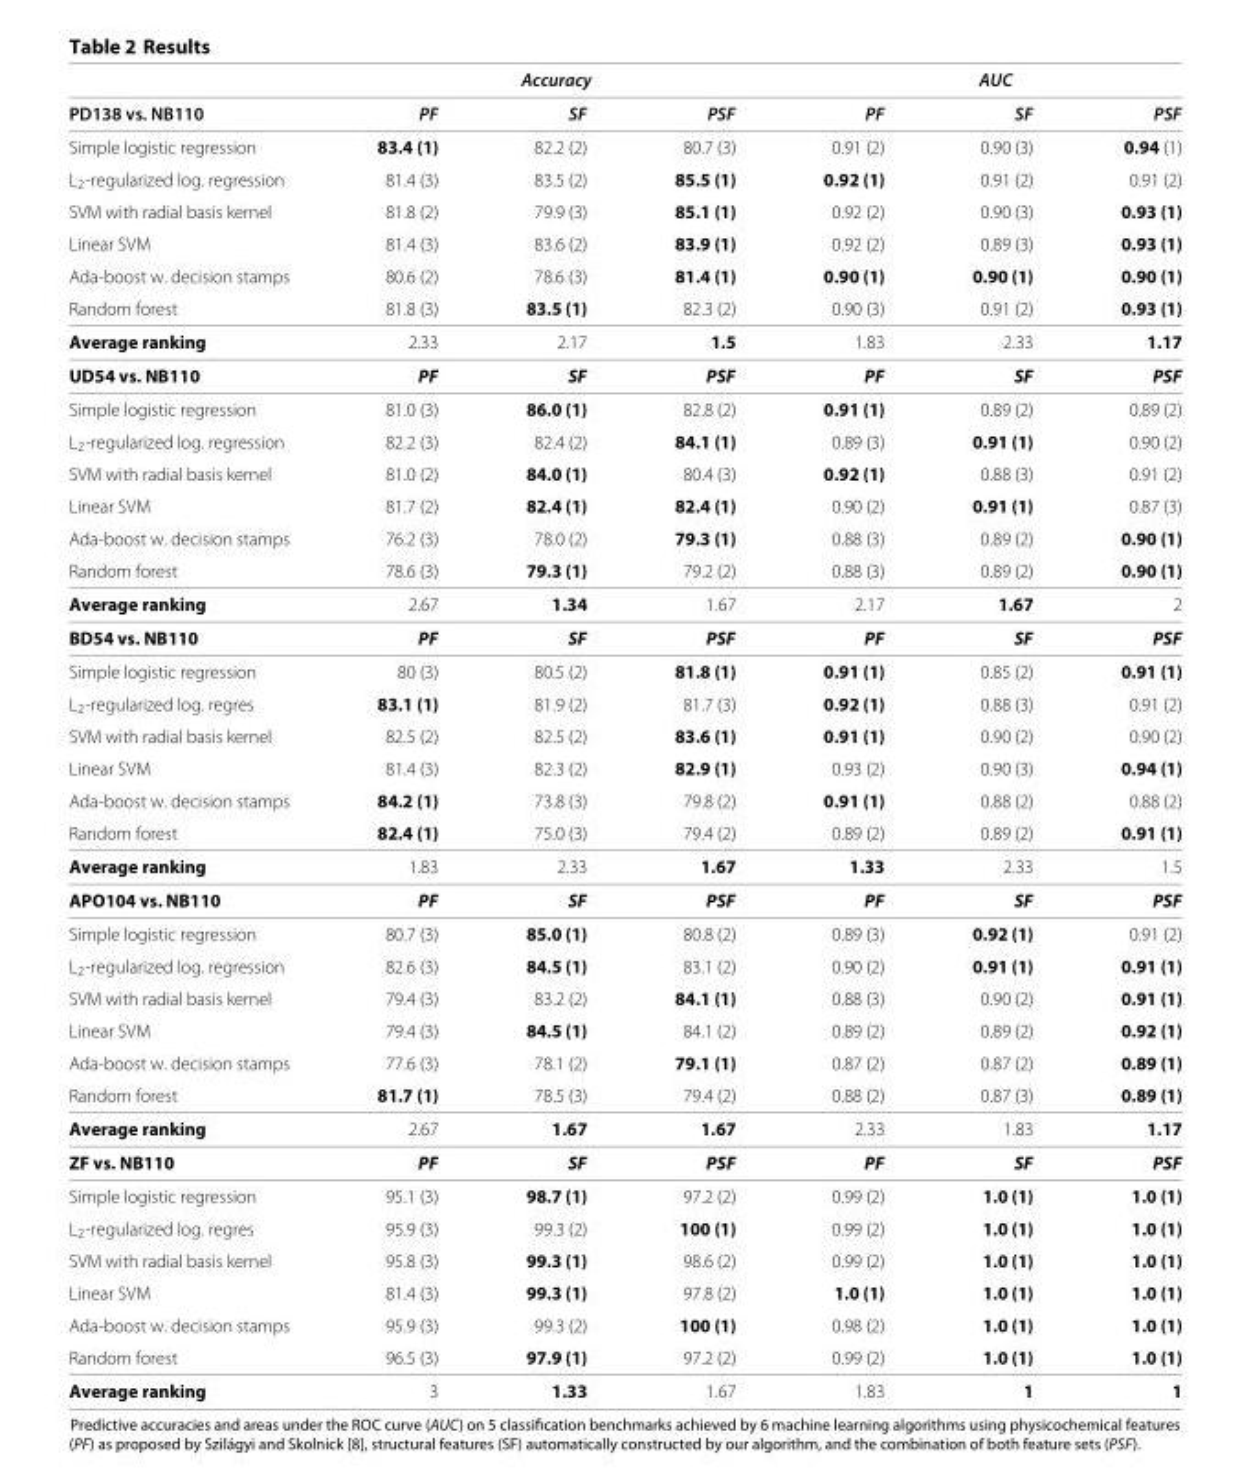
<table><thead><tr><td></td><td></td><td>Accuracy</td><td></td><td></td><td>AUC</td><td></td></tr></thead><tbody><tr><td>PD138 vs. NB110</td><td>PF</td><td>SF</td><td>PSF</td><td>PF</td><td>SF</td><td>PSF</td></tr><tr><td>Simple logistic regression</td><td>83.4 (1)</td><td>82.2 (2)</td><td>80.7 (3)</td><td>0.91 (2)</td><td>0.90 (3)</td><td>0.94 (1)</td></tr><tr><td>L<sub>2</sub>-regularized log. regression</td><td>81.4 (3)</td><td>83.5 (2)</td><td>85.5 (1)</td><td>0.92 (1)</td><td>0.91 (2)</td><td>0.91 (2)</td></tr><tr><td>SVM with radial basis kernel</td><td>81.8 (2)</td><td>79.9 (3)</td><td>85.1 (1)</td><td>0.92 (2)</td><td>0.90 (3)</td><td>0.93 (1)</td></tr><tr><td>Linear SVM</td><td>81.4 (3)</td><td>83.6 (2)</td><td>83.9 (1)</td><td>0.92 (2)</td><td>0.89 (3)</td><td>0.93 (1)</td></tr><tr><td>Ada-boost w. decision stamps</td><td>80.6 (2)</td><td>78.6 (3)</td><td>81.4 (1)</td><td>0.90 (1)</td><td>0.90 (1)</td><td>0.90 (1)</td></tr><tr><td>Random forest</td><td>81.8 (3)</td><td>83.5 (1)</td><td>82.3 (2)</td><td>0.90 (3)</td><td>0.91 (2)</td><td>0.93 (1)</td></tr><tr><td>Average ranking</td><td>2.33</td><td>2.17</td><td>1.5</td><td>1.83</td><td>2.33</td><td>1.17</td></tr><tr><td>UD54 vs. NB110</td><td>PF</td><td>SF</td><td>PSF</td><td>PF</td><td>SF</td><td>PSF</td></tr><tr><td>Simple logistic regression</td><td>81.0 (3)</td><td>86.0 (1)</td><td>82.8 (2)</td><td>0.91 (1)</td><td>0.89 (2)</td><td>0.89 (2)</td></tr><tr><td>L<sub>2</sub>-regularized log. regression</td><td>82.2 (3)</td><td>82.4 (2)</td><td>84.1 (1)</td><td>0.89 (3)</td><td>0.91 (1)</td><td>0.90 (2)</td></tr><tr><td>SVM with radial basis kernel</td><td>81.0 (2)</td><td>84.0 (1)</td><td>80.4 (3)</td><td>0.92 (1)</td><td>0.88 (3)</td><td>0.91 (2)</td></tr><tr><td>Linear SVM</td><td>81.7 (2)</td><td>82.4 (1)</td><td>82.4 (1)</td><td>0.90 (2)</td><td>0.91 (1)</td><td>0.87 (3)</td></tr><tr><td>Ada-boost w. decision stamps</td><td>76.2 (3)</td><td>78.0 (2)</td><td>79.3 (1)</td><td>0.88 (3)</td><td>0.89 (2)</td><td>0.90 (1)</td></tr><tr><td>Random forest</td><td>78.6 (3)</td><td>79.3 (1)</td><td>79.2 (2)</td><td>0.88 (3)</td><td>0.89 (2)</td><td>0.90 (1)</td></tr><tr><td>Average ranking</td><td>2.67</td><td>1.34</td><td>1.67</td><td>2.17</td><td>1.67</td><td>2</td></tr><tr><td>BD54 vs. NB110</td><td>PF</td><td>SF</td><td>PSF</td><td>PF</td><td>SF</td><td>PSF</td></tr><tr><td>Simple logistic regression</td><td>80 (3)</td><td>80.5 (2)</td><td>81.8 (1)</td><td>0.91 (1)</td><td>0.85 (2)</td><td>0.91 (1)</td></tr><tr><td>L<sub>2</sub>-regularized log. regres</td><td>83.1 (1)</td><td>81.9 (2)</td><td>81.7 (3)</td><td>0.92 (1)</td><td>0.88 (3)</td><td>0.91 (2)</td></tr><tr><td>SVM with radial basis kernel</td><td>82.5 (2)</td><td>82.5 (2)</td><td>83.6 (1)</td><td>0.91 (1)</td><td>0.90 (2)</td><td>0.90 (2)</td></tr><tr><td>Linear SVM</td><td>81.4 (3)</td><td>82.3 (2)</td><td>82.9 (1)</td><td>0.93 (2)</td><td>0.90 (3)</td><td>0.94 (1)</td></tr><tr><td>Ada-boost w. decision stamps</td><td>84.2 (1)</td><td>73.8 (3)</td><td>79.8 (2)</td><td>0.91 (1)</td><td>0.88 (2)</td><td>0.88 (2)</td></tr><tr><td>Random forest</td><td>82.4 (1)</td><td>75.0 (3)</td><td>79.4 (2)</td><td>0.89 (2)</td><td>0.89 (2)</td><td>0.91 (1)</td></tr><tr><td>Average ranking</td><td>1.83</td><td>2.33</td><td>1.67</td><td>1.33</td><td>2.33</td><td>1.5</td></tr><tr><td>APO104 vs. NB110</td><td>PF</td><td>SF</td><td>PSF</td><td>PF</td><td>SF</td><td>PSF</td></tr><tr><td>Simple logistic regression</td><td>80.7 (3)</td><td>85.0 (1)</td><td>80.8 (2)</td><td>0.89 (3)</td><td>0.92 (1)</td><td>0.91 (2)</td></tr><tr><td>L<sub>2</sub>-regularized log. regression</td><td>82.6 (3)</td><td>84.5 (1)</td><td>83.1 (2)</td><td>0.90 (2)</td><td>0.91 (1)</td><td>0.91 (1)</td></tr><tr><td>SVM with radial basis kernel</td><td>79.4 (3)</td><td>83.2 (2)</td><td>84.1 (1)</td><td>0.88 (3)</td><td>0.90 (2)</td><td>0.91 (1)</td></tr><tr><td>Linear SVM</td><td>79.4 (3)</td><td>84.5 (1)</td><td>84.1 (2)</td><td>0.89 (2)</td><td>0.89 (2)</td><td>0.92 (1)</td></tr><tr><td>Ada-boost w. decision stamps</td><td>77.6 (3)</td><td>78.1 (2)</td><td>79.1 (1)</td><td>0.87 (2)</td><td>0.87 (2)</td><td>0.89 (1)</td></tr><tr><td>Random forest</td><td>81.7 (1)</td><td>78.5 (3)</td><td>79.4 (2)</td><td>0.88 (2)</td><td>0.87 (3)</td><td>0.89 (1)</td></tr><tr><td>Average ranking</td><td>2.67</td><td>1.67</td><td>1.67</td><td>2.33</td><td>1.83</td><td>1.17</td></tr><tr><td>ZF vs. NB110</td><td>PF</td><td>SF</td><td>PSF</td><td>PF</td><td>SF</td><td>PSF</td></tr><tr><td>Simple logistic regression</td><td>95.1 (3)</td><td>98.7 (1)</td><td>97.2 (2)</td><td>0.99 (2)</td><td>1.0 (1)</td><td>1.0 (1)</td></tr><tr><td>L<sub>2</sub>-regularized log. regres</td><td>95.9 (3)</td><td>99.3 (2)</td><td>100 (1)</td><td>0.99 (2)</td><td>1.0 (1)</td><td>1.0 (1)</td></tr><tr><td>SVM with radial basis kernel</td><td>95.8 (3)</td><td>99.3 (1)</td><td>98.6 (2)</td><td>0.99 (2)</td><td>1.0 (1)</td><td>1.0 (1)</td></tr><tr><td>Linear SVM</td><td>81.4 (3)</td><td>99.3 (1)</td><td>97.8 (2)</td><td>1.0 (1)</td><td>1.0 (1)</td><td>1.0 (1)</td></tr><tr><td>Ada-boost w. decision stamps</td><td>95.9 (3)</td><td>99.3 (2)</td><td>100 (1)</td><td>0.98 (2)</td><td>1.0 (1)</td><td>1.0 (1)</td></tr><tr><td>Random forest</td><td>96.5 (3)</td><td>97.9 (1)</td><td>97.2 (2)</td><td>0.99 (2)</td><td>1.0 (1)</td><td>1.0 (1)</td></tr><tr><td>Average ranking</td><td>3</td><td>1.33</td><td>1.67</td><td>1.83</td><td>1</td><td>1</td></tr></tbody></table>